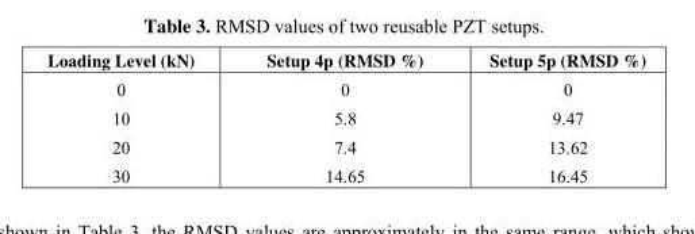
<table><thead><tr><td>Loading Level (kN)</td><td>Setup 4p (RMSD %)</td><td>Setup 5p (RMSD %)</td></tr></thead><tbody><tr><td>0</td><td>0</td><td>0</td></tr><tr><td>10</td><td>5.8</td><td>9.47</td></tr><tr><td>20</td><td>7.4</td><td>13.62</td></tr><tr><td>30</td><td>14.65</td><td>16.45</td></tr></tbody></table>